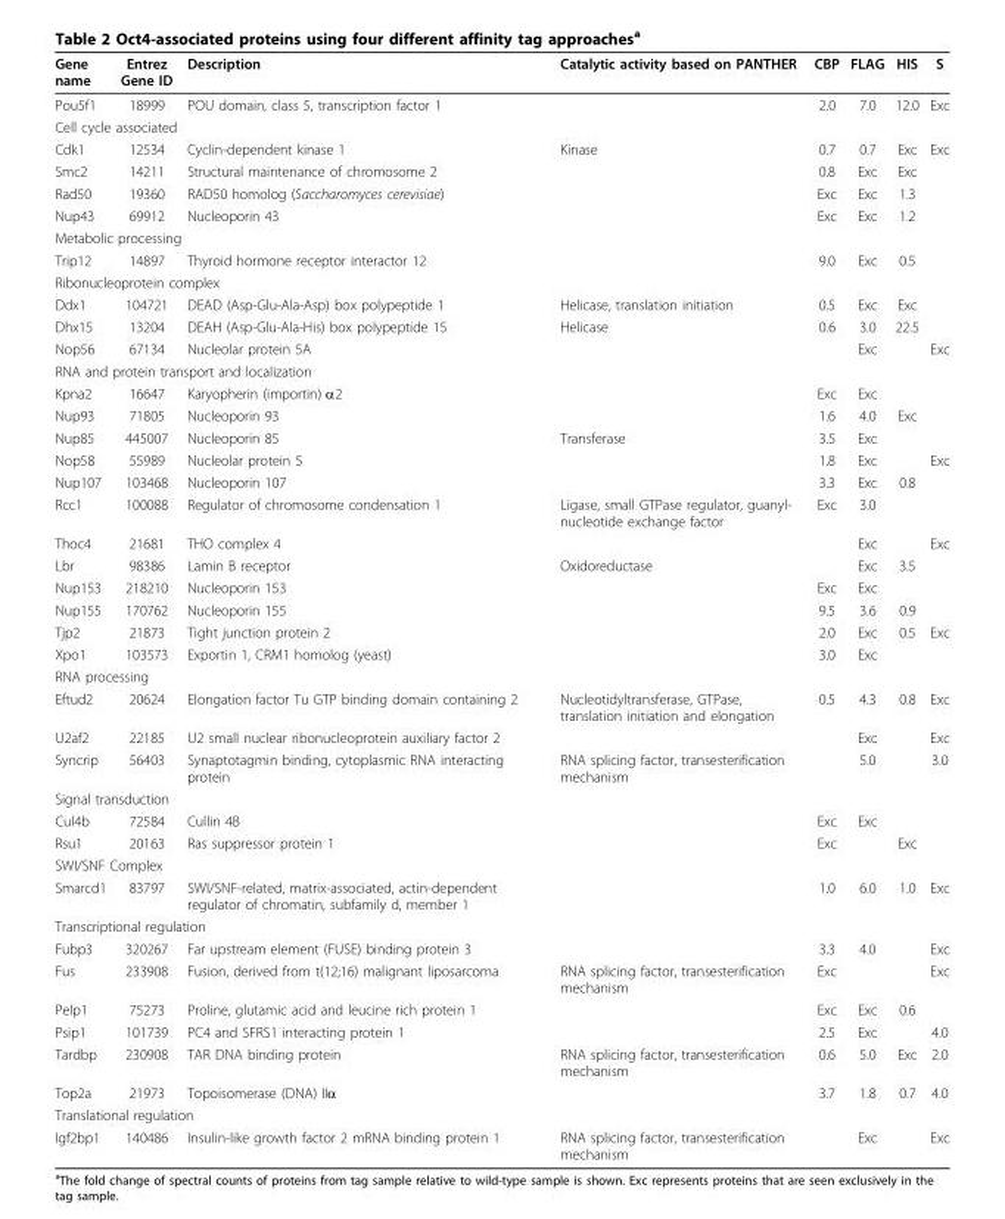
<table><thead><tr><td>Gene name</td><td>Entrez Gene ID</td><td>Description</td><td>Catalytic activity based on PANTHER</td><td>CBP</td><td>FLAG</td><td>HIS</td><td>S</td></tr></thead><tbody><tr><td>Pou5f1</td><td>18999</td><td>POU domain, class 5, transcription factor 1</td><td></td><td>2.0</td><td>7.0</td><td>12.0</td><td>Exc</td></tr><tr><td colspan="8">Cell cycle associated</td></tr><tr><td>Cdk1</td><td>12534</td><td>Cyclin-dependent kinase 1</td><td>Kinase</td><td>0.7</td><td>0.7</td><td>Exc</td><td>Exc</td></tr><tr><td>Smc2</td><td>14211</td><td>Structural maintenance of chromosome 2</td><td></td><td>0.8</td><td>Exc</td><td>Exc</td><td></td></tr><tr><td>Rad50</td><td>19360</td><td>RAD50 homolog (Saccharomyces cerevisiae)</td><td></td><td>Exc</td><td>Exc</td><td>1.3</td><td></td></tr><tr><td>Nup43</td><td>69912</td><td>Nucleoporin 43</td><td></td><td>Exc</td><td>Exc</td><td>1.2</td><td></td></tr><tr><td colspan="8">Metabolic processing</td></tr><tr><td>Trip12</td><td>14897</td><td>Thyroid hormone receptor interactor 12</td><td></td><td>9.0</td><td>Exc</td><td>0.5</td><td></td></tr><tr><td colspan="8">Ribonucleoprotein complex</td></tr><tr><td>Ddx1</td><td>104721</td><td>DEAD (Asp-Glu-Ala-Asp) box polypeptide 1</td><td>Helicase, translation initiation</td><td>0.5</td><td>Exc</td><td>Exc</td><td></td></tr><tr><td>Dhx15</td><td>13204</td><td>DEAH (Asp-Glu-Ala-His) box polypeptide 15</td><td>Helicase</td><td>0.6</td><td>3.0</td><td>22.5</td><td></td></tr><tr><td>Nop56</td><td>67134</td><td>Nucleolar protein 5A</td><td></td><td></td><td>Exc</td><td></td><td>Exc</td></tr><tr><td colspan="8">RNA and protein transport and localization</td></tr><tr><td>Kpna2</td><td>16647</td><td>Karyopherin (importin) α2</td><td></td><td>Exc</td><td>Exc</td><td></td><td></td></tr><tr><td>Nup93</td><td>71805</td><td>Nucleoporin 93</td><td></td><td>1.6</td><td>4.0</td><td>Exc</td><td></td></tr><tr><td>Nup85</td><td>445007</td><td>Nucleoporin 85</td><td>Transferase</td><td>3.5</td><td>Exc</td><td></td><td></td></tr><tr><td>Nop58</td><td>55989</td><td>Nucleolar protein 5</td><td></td><td>1.8</td><td>Exc</td><td></td><td>Exc</td></tr><tr><td>Nup107</td><td>103468</td><td>Nucleoporin 107</td><td></td><td>3.3</td><td>Exc</td><td>0.8</td><td></td></tr><tr><td>Rcc1</td><td>100088</td><td>Regulator of chromosome condensation 1</td><td>Ligase, small GTPase regulator, guanyl- nucleotide exchange factor</td><td>Exc</td><td>3.0</td><td></td><td></td></tr><tr><td>Thoc4</td><td>21681</td><td>THO complex 4</td><td></td><td></td><td>Exc</td><td></td><td>Exc</td></tr><tr><td>Lbr</td><td>98386</td><td>Lamin B receptor</td><td>Oxidoreductase</td><td></td><td>Exc</td><td>3.5</td><td></td></tr><tr><td>Nup153</td><td>218210</td><td>Nucleoporin 153</td><td></td><td>Exc</td><td>Exc</td><td></td><td></td></tr><tr><td>Nup155</td><td>170762</td><td>Nucleoporin 155</td><td></td><td>9.5</td><td>3.6</td><td>0.9</td><td></td></tr><tr><td>Tjp2</td><td>21873</td><td>Tight junction protein 2</td><td></td><td>2.0</td><td>Exc</td><td>0.5</td><td>Exc</td></tr><tr><td>Xpo1</td><td>103573</td><td>Exportin 1, CRM1 homolog (yeast)</td><td></td><td>3.0</td><td>Exc</td><td></td><td></td></tr><tr><td colspan="8">RNA processing</td></tr><tr><td>Eftud2</td><td>20624</td><td>Elongation factor Tu GTP binding domain containing 2</td><td>Nucleotidyltransferase, GTPase, translation initiation and elongation</td><td>0.5</td><td>4.3</td><td>0.8</td><td>Exc</td></tr><tr><td>U2af2</td><td>22185</td><td>U2 small nuclear ribonucleoprotein auxiliary factor 2</td><td></td><td></td><td>Exc</td><td></td><td>Exc</td></tr><tr><td>Syncrip</td><td>56403</td><td>Synaptotagmin binding, cytoplasmic RNA interacting protein</td><td>RNA splicing factor, transesterification mechanism</td><td></td><td>5.0</td><td></td><td>3.0</td></tr><tr><td colspan="8">Signal transduction</td></tr><tr><td>Cul4b</td><td>72584</td><td>Cullin 4B</td><td></td><td>Exc</td><td>Exc</td><td></td><td></td></tr><tr><td>Rsu1</td><td>20163</td><td>Ras suppressor protein 1</td><td></td><td>Exc</td><td></td><td>Exc</td><td></td></tr><tr><td colspan="8">SWI/SNF Complex</td></tr><tr><td>Smarcd1</td><td>83797</td><td>SWI/SNF-related, matrix-associated, actin-dependent regulator of chromatin, subfamily d, member 1</td><td></td><td>1.0</td><td>6.0</td><td>1.0</td><td>Exc</td></tr><tr><td colspan="8">Transcriptional regulation</td></tr><tr><td>Fubp3</td><td>320267</td><td>Far upstream element (FUSE) binding protein 3</td><td></td><td>3.3</td><td>4.0</td><td></td><td>Exc</td></tr><tr><td>Fus</td><td>233908</td><td>Fusion, derived from t(12;16) malignant liposarcoma</td><td>RNA splicing factor, transesterification mechanism</td><td>Exc</td><td></td><td></td><td>Exc</td></tr><tr><td>Pelp1</td><td>75273</td><td>Proline, glutamic acid and leucine rich protein 1</td><td></td><td>Exc</td><td>Exc</td><td>0.6</td><td></td></tr><tr><td>Psip1</td><td>101739</td><td>PC4 and SFRS1 interacting protein 1</td><td></td><td>2.5</td><td>Exc</td><td></td><td>4.0</td></tr><tr><td>Tardbp</td><td>230908</td><td>TAR DNA binding protein</td><td>RNA splicing factor, transesterification mechanism</td><td>0.6</td><td>5.0</td><td>Exc</td><td>2.0</td></tr><tr><td>Top2a</td><td>21973</td><td>Topoisomerase (DNA) IIα</td><td></td><td>3.7</td><td>1.8</td><td>0.7</td><td>4.0</td></tr><tr><td colspan="8">Translational regulation</td></tr><tr><td>Igf2bp1</td><td>140486</td><td>Insulin-like growth factor 2 mRNA binding protein 1</td><td>RNA splicing factor, transesterification mechanism</td><td></td><td>Exc</td><td></td><td>Exc</td></tr></tbody></table>